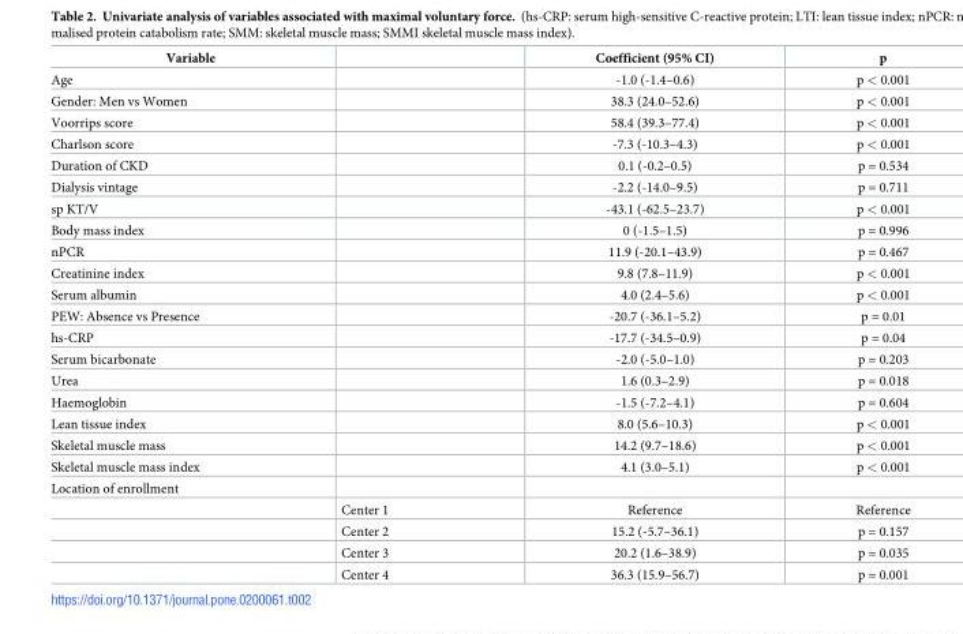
<table><thead><tr><td>Variable</td><td></td><td>Coefficient (95% CI)</td><td>p</td></tr></thead><tbody><tr><td>Age</td><td></td><td>-1.0 (-1.4–0.6)</td><td>p &lt; 0.001</td></tr><tr><td>Gender: Men vs Women</td><td></td><td>38.3 (24.0–52.6)</td><td>p &lt; 0.001</td></tr><tr><td>Voorrips score</td><td></td><td>58.4 (39.3–77.4)</td><td>p &lt; 0.001</td></tr><tr><td>Charlson score</td><td></td><td>-7.3 (-10.3–4.3)</td><td>p &lt; 0.001</td></tr><tr><td>Duration of CKD</td><td></td><td>0.1 (-0.2–0.5)</td><td>p = 0.534</td></tr><tr><td>Dialysis vintage</td><td></td><td>-2.2 (-14.0–9.5)</td><td>p = 0.711</td></tr><tr><td>sp KT/V</td><td></td><td>-43.1 (-62.5–23.7)</td><td>p &lt; 0.001</td></tr><tr><td>Body mass index</td><td></td><td>0 (-1.5–1.5)</td><td>p = 0.996</td></tr><tr><td>nPCR</td><td></td><td>11.9 (-20.1–43.9)</td><td>p = 0.467</td></tr><tr><td>Creatinine index</td><td></td><td>9.8 (7.8–11.9)</td><td>p &lt; 0.001</td></tr><tr><td>Serum albumin</td><td></td><td>4.0 (2.4–5.6)</td><td>p &lt; 0.001</td></tr><tr><td>PEW: Absence vs Presence</td><td></td><td>-20.7 (-36.1–5.2)</td><td>p = 0.01</td></tr><tr><td>hs-CRP</td><td></td><td>-17.7 (-34.5–0.9)</td><td>p = 0.04</td></tr><tr><td>Serum bicarbonate</td><td></td><td>-2.0 (-5.0–1.0)</td><td>p = 0.203</td></tr><tr><td>Urea</td><td></td><td>1.6 (0.3–2.9)</td><td>p = 0.018</td></tr><tr><td>Haemoglobin</td><td></td><td>-1.5 (-7.2–4.1)</td><td>p = 0.604</td></tr><tr><td>Lean tissue index</td><td></td><td>8.0 (5.6–10.3)</td><td>p &lt; 0.001</td></tr><tr><td>Skeletal muscle mass</td><td></td><td>14.2 (9.7–18.6)</td><td>p &lt; 0.001</td></tr><tr><td>Skeletal muscle mass index</td><td></td><td>4.1 (3.0–5.1)</td><td>p &lt; 0.001</td></tr><tr><td colspan="4">Location of enrollment</td></tr><tr><td></td><td>Center 1</td><td>Reference</td><td>Reference</td></tr><tr><td></td><td>Center 2</td><td>15.2 (-5.7–36.1)</td><td>p = 0.157</td></tr><tr><td></td><td>Center 3</td><td>20.2 (1.6–38.9)</td><td>p = 0.035</td></tr><tr><td></td><td>Center 4</td><td>36.3 (15.9–56.7)</td><td>p = 0.001</td></tr></tbody></table>